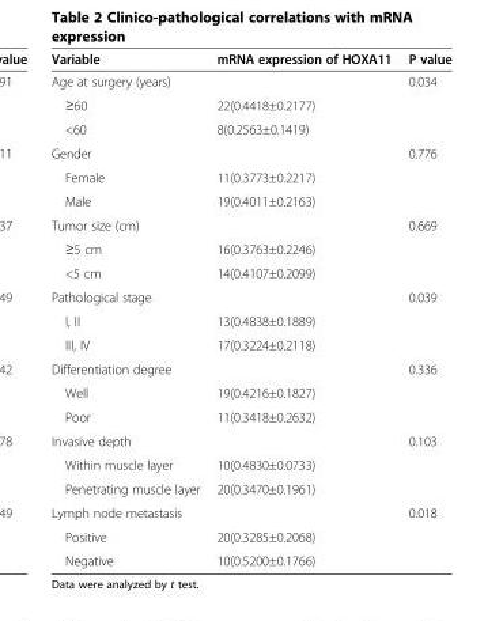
<table><thead><tr><td>Variable</td><td>mRNA expression of HOXA11</td><td>P value</td></tr></thead><tbody><tr><td>Age at surgery (years)</td><td></td><td>0.034</td></tr><tr><td>≥60</td><td>22(0.4418±0.2177)</td><td></td></tr><tr><td>&lt;60</td><td>8(0.2563±0.1419)</td><td></td></tr><tr><td>Gender</td><td></td><td>0.776</td></tr><tr><td>Female</td><td>11(0.3773±0.2217)</td><td></td></tr><tr><td>Male</td><td>19(0.4011±0.2163)</td><td></td></tr><tr><td>Tumor size (cm)</td><td></td><td>0.669</td></tr><tr><td>≥5 cm</td><td>16(0.3763±0.2246)</td><td></td></tr><tr><td>&lt;5 cm</td><td>14(0.4107±0.2099)</td><td></td></tr><tr><td>Pathological stage</td><td></td><td>0.039</td></tr><tr><td>I, II</td><td>13(0.4838±0.1889)</td><td></td></tr><tr><td>III, IV</td><td>17(0.3224±0.2118)</td><td></td></tr><tr><td>Differentiation degree</td><td></td><td>0.336</td></tr><tr><td>Well</td><td>19(0.4216±0.1827)</td><td></td></tr><tr><td>Poor</td><td>11(0.3418±0.2632)</td><td></td></tr><tr><td>Invasive depth</td><td></td><td>0.103</td></tr><tr><td>Within muscle layer</td><td>10(0.4830±0.0733)</td><td></td></tr><tr><td>Penetrating muscle layer</td><td>20(0.3470±0.1961)</td><td></td></tr><tr><td>Lymph node metastasis</td><td></td><td>0.018</td></tr><tr><td>Positive</td><td>20(0.3285±0.2068)</td><td></td></tr><tr><td>Negative</td><td>10(0.5200±0.1766)</td><td></td></tr></tbody></table>